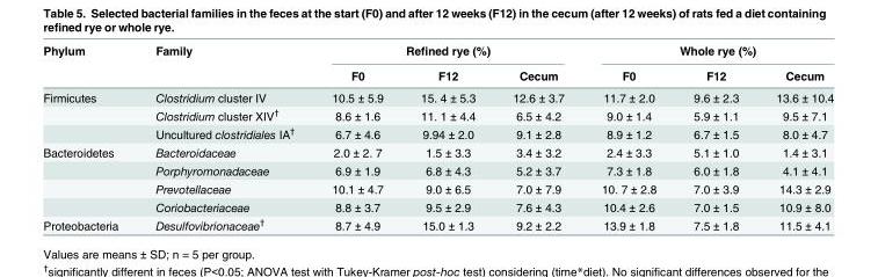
<table><thead><tr><td rowspan="2">Phylum</td><td rowspan="2">Family</td><td colspan="3">Refined rye (%)</td><td colspan="3">Whole rye (%)</td></tr><tr><td>F0</td><td>F12</td><td>Cecum</td><td>F0</td><td>F12</td><td>Cecum</td></tr></thead><tbody><tr><td rowspan="3">Firmicutes</td><td>Clostridium cluster IV</td><td>10.5 ± 5.9</td><td>15. 4 ± 5.3</td><td>12.6 ± 3.7</td><td>11.7 ± 2.0</td><td>9.6 ± 2.3</td><td>13.6 ± 10.4</td></tr><tr><td>Clostridium cluster XIV<sup>†</sup></td><td>8.6 ± 1.6</td><td>11. 1 ± 4.4</td><td>6.5 ± 4.2</td><td>9.0 ± 1.4</td><td>5.9 ± 1.1</td><td>9.5 ± 7.1</td></tr><tr><td>Uncultured clostridiales IA<sup>†</sup></td><td>6.7 ± 4.6</td><td>9.94 ± 2.0</td><td>9.1 ± 2.8</td><td>8.9 ± 1.2</td><td>6.7 ± 1.5</td><td>8.0 ± 4.7</td></tr><tr><td rowspan="4">Bacteroidetes</td><td>Bacteroidaceae</td><td>2.0 ± 2. 7</td><td>1.5 ± 3.3</td><td>3.4 ± 3.2</td><td>2.4 ± 3.3</td><td>5.1 ± 1.0</td><td>1.4 ± 3.1</td></tr><tr><td>Porphyromonadaceae</td><td>6.9 ± 1.9</td><td>6.8 ± 4.3</td><td>5.2 ± 3.7</td><td>7.3 ± 1.8</td><td>6.0 ± 1.8</td><td>4.1 ± 4.1</td></tr><tr><td>Prevotellaceae</td><td>10.1 ± 4.7</td><td>9.0 ± 6.5</td><td>7.0 ± 7.9</td><td>10. 7 ± 2.8</td><td>7.0 ± 3.9</td><td>14.3 ± 2.9</td></tr><tr><td>Coriobacteriaceae</td><td>8.8 ± 3.7</td><td>9.5 ± 2.9</td><td>7.6 ± 4.3</td><td>10.4 ± 2.6</td><td>7.0 ± 1.5</td><td>10.9 ± 8.0</td></tr><tr><td>Proteobacteria</td><td>Desulfovibrionaceae<sup>†</sup></td><td>8.7 ± 4.9</td><td>15.0 ± 1.3</td><td>9.2 ± 2.2</td><td>13.9 ± 1.8</td><td>7.5 ± 1.8</td><td>11.5 ± 4.1</td></tr></tbody></table>